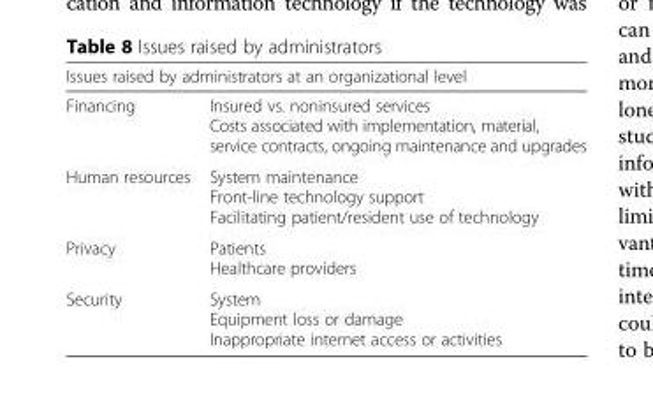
<table><thead><tr><td colspan="2">Issues raised by administrators at an organizational level</td></tr><tr><td>Financing</td><td>Insured vs. noninsured services Costs associated with implementation, material, service contracts, ongoing maintenance and upgrades</td></tr></thead><tbody><tr><td>Human resources</td><td>System maintenance Front-line technology support Facilitating patient/resident use of technology</td></tr><tr><td>Privacy</td><td>Patients Healthcare providers</td></tr><tr><td>Security</td><td>System Equipment loss or damage Inappropriate internet access or activities</td></tr></tbody></table>